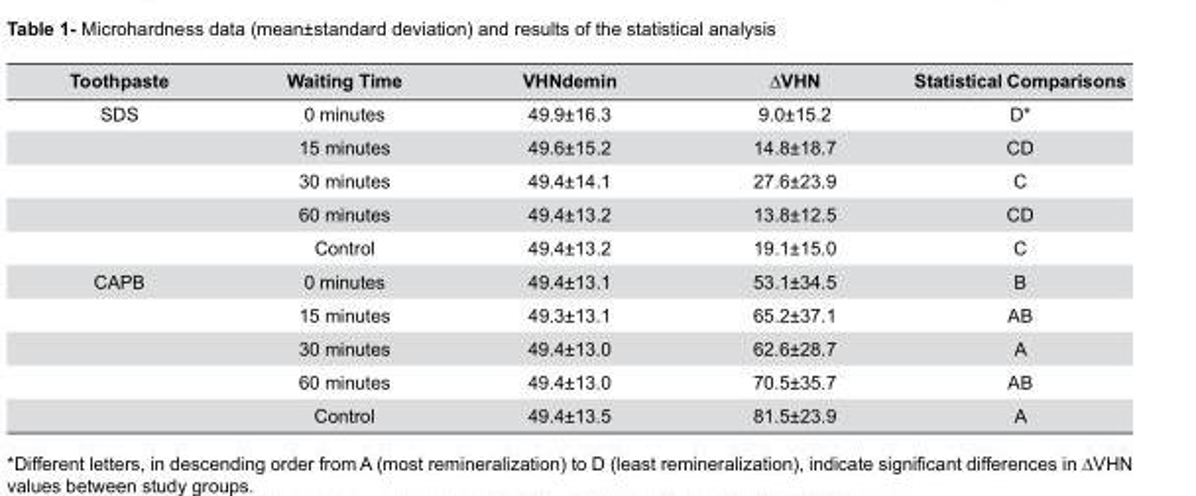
<table><thead><tr><td>Toothpaste</td><td>Waiting Time</td><td>VHNdemin</td><td>∆VHN</td><td>Statistical Comparisons</td></tr></thead><tbody><tr><td rowspan="5">SDS</td><td>0 minutes</td><td>49.9±16.3</td><td>9.0±15.2</td><td>D*</td></tr><tr><td>15 minutes</td><td>49.6±15.2</td><td>14.8±18.7</td><td>CD</td></tr><tr><td>30 minutes</td><td>49.4±14.1</td><td>27.6±23.9</td><td>C</td></tr><tr><td>60 minutes</td><td>49.4±13.2</td><td>13.8±12.5</td><td>CD</td></tr><tr><td>Control</td><td>49.4±13.2</td><td>19.1±15.0</td><td>C</td></tr><tr><td rowspan="5">CAPB</td><td>0 minutes</td><td>49.4±13.1</td><td>53.1±34.5</td><td>B</td></tr><tr><td>15 minutes</td><td>49.3±13.1</td><td>65.2±37.1</td><td>AB</td></tr><tr><td>30 minutes</td><td>49.4±13.0</td><td>62.6±28.7</td><td>A</td></tr><tr><td>60 minutes</td><td>49.4±13.0</td><td>70.5±35.7</td><td>AB</td></tr><tr><td>Control</td><td>49.4±13.5</td><td>81.5±23.9</td><td>A</td></tr></tbody></table>